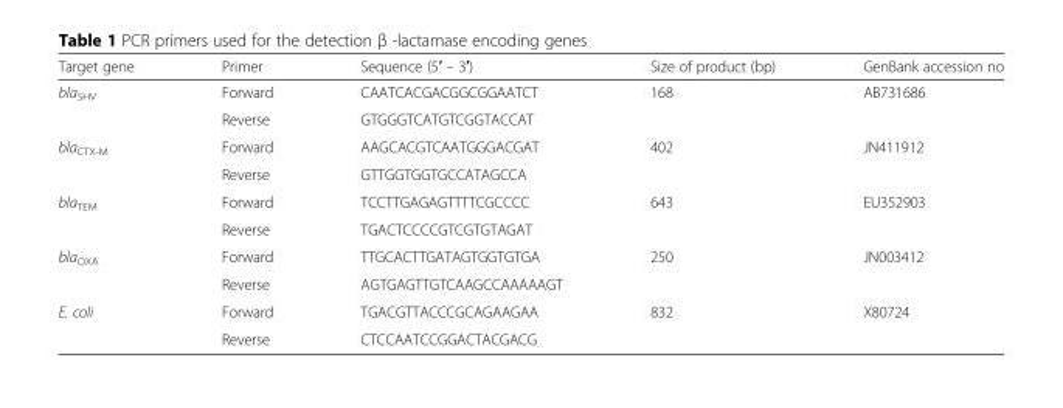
<table><thead><tr><td>Target gene</td><td>Primer</td><td>Sequence (5′ – 3′)</td><td>Size of product (bp)</td><td>GenBank accession no</td></tr></thead><tbody><tr><td rowspan="2">bla<sub>SHV</sub></td><td>Forward</td><td>CAATCACGACGGCGGAATCT</td><td rowspan="2">168</td><td rowspan="2">AB731686</td></tr><tr><td>Reverse</td><td>GTGGGTCATGTCGGTACCAT</td></tr><tr><td rowspan="2">bla<sub>CTX-M</sub></td><td>Forward</td><td>AAGCACGTCAATGGGACGAT</td><td rowspan="2">402</td><td rowspan="2">JN411912</td></tr><tr><td>Reverse</td><td>GTTGGTGGTGCCATAGCCA</td></tr><tr><td rowspan="2">bla<sub>TEM</sub></td><td>Forward</td><td>TCCTTGAGAGTTTTCGCCCC</td><td rowspan="2">643</td><td rowspan="2">EU352903</td></tr><tr><td>Reverse</td><td>TGACTCCCCGTCGTGTAGAT</td></tr><tr><td rowspan="2">bla<sub>OXA</sub></td><td>Forward</td><td>TTGCACTTGATAGTGGTGTGA</td><td rowspan="2">250</td><td rowspan="2">JN003412</td></tr><tr><td>Reverse</td><td>AGTGAGTTGTCAAGCCAAAAAGT</td></tr><tr><td rowspan="2">E. coli</td><td>Forward</td><td>TGACGTTACCCGCAGAAGAA</td><td rowspan="2">832</td><td rowspan="2">X80724</td></tr><tr><td>Reverse</td><td>CTCCAATCCGGACTACGACG</td></tr></tbody></table>